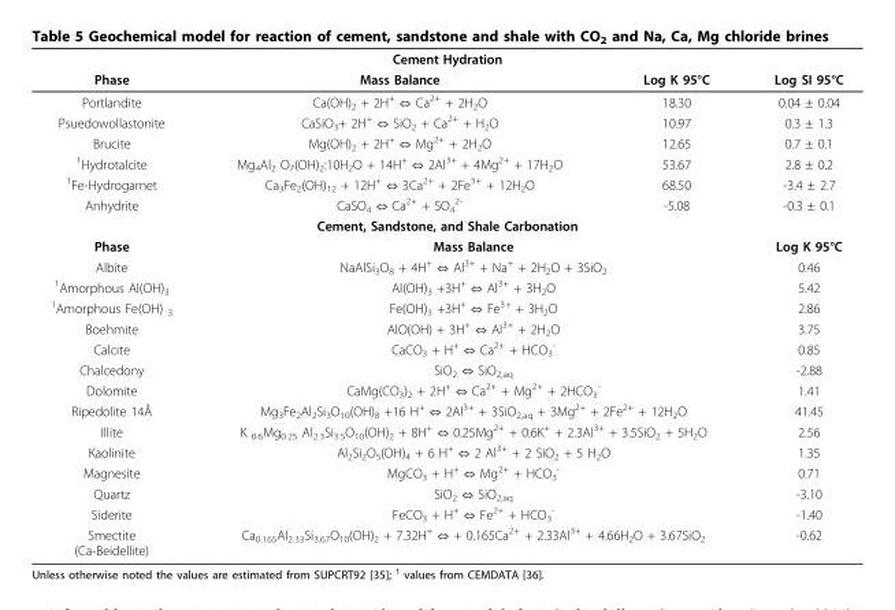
<table><thead><tr><td colspan="4">Cement Hydration</td></tr><tr><td>Phase</td><td>Mass Balance</td><td>Log K 95°C</td><td>Log SI 95°C</td></tr></thead><tbody><tr><td>Portlandite</td><td>Ca(OH)<sub>2</sub> + 2H<sup>+</sup> ⇔ Ca<sup>2+</sup> + 2H<sub>2</sub>O</td><td>18.30</td><td>0.04 ± 0.04</td></tr><tr><td>Psuedowollastonite</td><td>CaSiO<sub>3</sub>+ 2H<sup>+</sup> ⇔ SiO<sub>2</sub> + Ca<sup>2+</sup> + H<sub>2</sub>O</td><td>10.97</td><td>0.3 ± 1.3</td></tr><tr><td>Brucite</td><td>Mg(OH)<sub>2</sub> + 2H<sup>+</sup> ⇔ Mg<sup>2+</sup> + 2H<sub>2</sub>O</td><td>12.65</td><td>0.7 ± 0.1</td></tr><tr><td><sup>1</sup>Hydrotalcite</td><td>Mg<sub>4</sub>Al<sub>2</sub> O<sub>7</sub>(OH)<sub>2</sub>:10H<sub>2</sub>O + 14H<sup>+</sup> ⇔ 2Al<sup>3+</sup> + 4Mg<sup>2+</sup> + 17H<sub>2</sub>O</td><td>53.67</td><td>2.8 ± 0.2</td></tr><tr><td><sup>1</sup>Fe-Hydrogarnet</td><td>Ca<sub>3</sub>Fe<sub>2</sub>(OH)<sub>12</sub> + 12H<sup>+</sup> ⇔ 3Ca<sup>2+</sup> + 2Fe<sup>3+</sup> + 12H<sub>2</sub>O</td><td>68.50</td><td>-3.4 ± 2.7</td></tr><tr><td>Anhydrite</td><td>CaSO<sub>4</sub> ⇔ Ca<sup>2+</sup> + SO<sub>4</sub> <sup>2-</sup></td><td>-5.08</td><td>-0.3 ± 0.1</td></tr><tr><td colspan="4">Cement, Sandstone, and Shale Carbonation</td></tr><tr><td>Phase</td><td colspan="2">Mass Balance</td><td>Log K 95°C</td></tr><tr><td>Albite</td><td colspan="2">NaAlSi<sub>3</sub>O<sub>8</sub> + 4H<sup>+</sup> ⇔ Al<sup>3+</sup> + Na<sup>+</sup> + 2H<sub>2</sub>O + 3SiO<sub>2</sub></td><td>0.46</td></tr><tr><td><sup>1</sup>Amorphous Al(OH)<sub>3</sub></td><td colspan="2">Al(OH)<sub>3</sub> +3H<sup>+</sup> ⇔ Al<sup>3+</sup> + 3H<sub>2</sub>O</td><td>5.42</td></tr><tr><td><sup>1</sup>Amorphous Fe(OH) <sub>3</sub></td><td colspan="2">Fe(OH)<sub>3</sub> +3H<sup>+</sup> ⇔ Fe<sup>3+</sup> + 3H<sub>2</sub>O</td><td>2.86</td></tr><tr><td>Boehmite</td><td colspan="2">AlO(OH) + 3H<sup>+</sup> ⇔ Al<sup>3+</sup> + 2H<sub>2</sub>O</td><td>3.75</td></tr><tr><td>Calcite</td><td colspan="2">CaCO<sub>3</sub> + H<sup>+</sup> ⇔ Ca<sup>2+</sup> + HCO<sub>3</sub> <sup>-</sup></td><td>0.85</td></tr><tr><td>Chalcedony</td><td colspan="2">SiO<sub>2</sub> ⇔ SiO<sub>2,aq</sub></td><td>-2.88</td></tr><tr><td>Dolomite</td><td colspan="2">CaMg(CO<sub>3</sub>)<sub>2</sub> + 2H<sup>+</sup> ⇔ Ca<sup>2+</sup> + Mg<sup>2+</sup> + 2HCO<sub>3</sub> <sup>-</sup></td><td>1.41</td></tr><tr><td>Ripedolite 14Å</td><td colspan="2">Mg<sub>3</sub>Fe<sub>2</sub>Al<sub>2</sub>Si<sub>3</sub>O<sub>10</sub>(OH)<sub>8</sub> +16 H<sup>+</sup> ⇔ 2Al<sup>3+</sup> + 3SiO<sub>2,aq</sub> + 3Mg<sup>2+</sup> + 2Fe<sup>2+</sup> + 12H<sub>2</sub>O</td><td>41.45</td></tr><tr><td>Illite</td><td colspan="2">K <sub>0.6</sub>Mg<sub>0.25</sub> Al<sub>2.3</sub>Si<sub>3.5</sub>O<sub>10</sub>(OH)<sub>2</sub> + 8H<sup>+</sup> ⇔ 0.25Mg<sup>2+</sup> + 0.6K<sup>+</sup> + 2.3Al<sup>3+</sup> + 3.5SiO<sub>2</sub> + 5H<sub>2</sub>O</td><td>2.56</td></tr><tr><td>Kaolinite</td><td colspan="2">Al<sub>2</sub>Si<sub>2</sub>O<sub>5</sub>(OH)<sub>4</sub> + 6 H<sup>+</sup> ⇔ 2 Al<sup>3+</sup> + 2 SiO<sub>2</sub> + 5 H<sub>2</sub>O</td><td>1.35</td></tr><tr><td>Magnesite</td><td colspan="2">MgCO<sub>3</sub> + H<sup>+</sup> ⇔ Mg<sup>2+</sup> + HCO<sub>3</sub> <sup>-</sup></td><td>0.71</td></tr><tr><td>Quartz</td><td colspan="2">SiO<sub>2</sub> ⇔ SiO<sub>2,aq</sub></td><td>-3.10</td></tr><tr><td>Siderite</td><td colspan="2">FeCO<sub>3</sub> + H<sup>+</sup> ⇔ Fe<sup>2+</sup> + HCO<sub>3</sub> <sup>-</sup></td><td>-1.40</td></tr><tr><td>Smectite (Ca-Beidellite)</td><td colspan="2">Ca<sub>0.165</sub>Al<sub>2.33</sub>Si<sub>3.67</sub>O<sub>10</sub>(OH)<sub>2</sub> + 7.32H<sup>+</sup> ⇔ + 0.165Ca<sup>2+</sup> + 2.33Al<sup>3+</sup> + 4.66H<sub>2</sub>O + 3.67SiO<sub>2</sub></td><td>-0.62</td></tr></tbody></table>